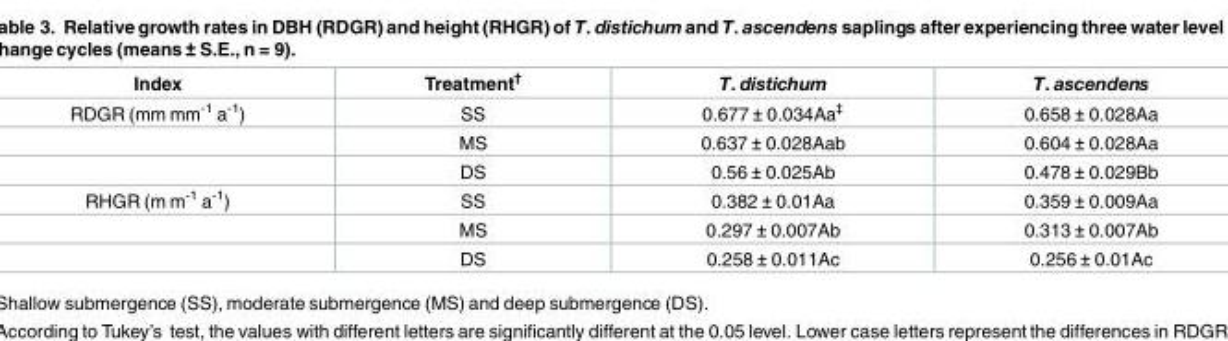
<table><thead><tr><td>Index</td><td>Treatment<sup>†</sup></td><td>T. distichum</td><td>T. ascendens</td></tr></thead><tbody><tr><td rowspan="3">RDGR (mm mm<sup>-1</sup> a<sup>-1</sup>)</td><td>SS</td><td>0.677 ± 0.034Aa<sup>‡</sup></td><td>0.658 ± 0.028Aa</td></tr><tr><td>MS</td><td>0.637 ± 0.028Aab</td><td>0.604 ± 0.028Aa</td></tr><tr><td>DS</td><td>0.56 ± 0.025Ab</td><td>0.478 ± 0.029Bb</td></tr><tr><td rowspan="3">RHGR (m m<sup>-1</sup> a<sup>-1</sup>)</td><td>SS</td><td>0.382 ± 0.01Aa</td><td>0.359 ± 0.009Aa</td></tr><tr><td>MS</td><td>0.297 ± 0.007Ab</td><td>0.313 ± 0.007Ab</td></tr><tr><td>DS</td><td>0.258 ± 0.011Ac</td><td>0.256 ± 0.01Ac</td></tr></tbody></table>